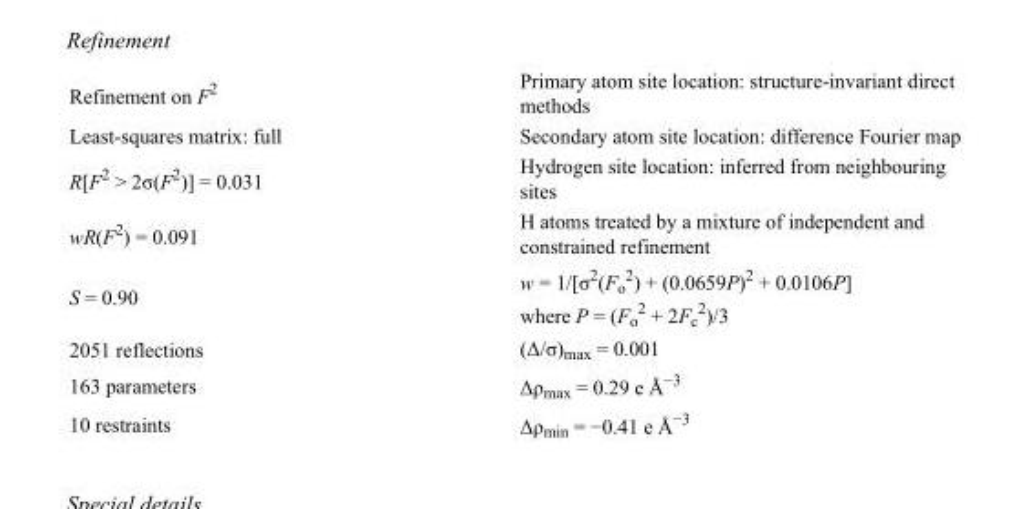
<table><tbody><tr><td>Refinement on F<sup>2</sup></td><td>Primary atom site location: structure-invariant direct methods</td></tr><tr><td>Least-squares matrix: full</td><td>Secondary atom site location: difference Fourier map</td></tr><tr><td>R[F<sup>2</sup> &gt; 2σ(F<sup>2</sup>)] = 0.031</td><td>Hydrogen site location: inferred from neighbouring sites</td></tr><tr><td>wR(F<sup>2</sup>) = 0.091</td><td>H atoms treated by a mixture of independent and constrained refinement</td></tr><tr><td>S = 0.90</td><td>w = 1/[σ<sup>2</sup>(F<sub>o</sub> <sup>2</sup>) + (0.0659P)<sup>2</sup> + 0.0106P] where P = (F<sub>o</sub> <sup>2</sup> + 2F<sub>c</sub> <sup>2</sup>)/3</td></tr><tr><td>2051 reflections</td><td>(Δ/σ)<sub>max</sub> = 0.001</td></tr><tr><td>163 parameters</td><td>Δρ<sub>max</sub> = 0.29 e Å<sup>−3</sup></td></tr><tr><td>10 restraints</td><td>Δρ<sub>min</sub> = −0.41 e Å<sup>−3</sup></td></tr></tbody></table>